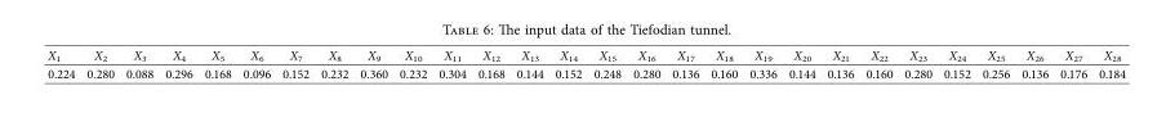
<table><thead><tr><td>X<sub>1</sub></td><td>X<sub>2</sub></td><td>X<sub>3</sub></td><td>X<sub>4</sub></td><td>X<sub>5</sub></td><td>X<sub>6</sub></td><td>X<sub>7</sub></td><td>X<sub>8</sub></td><td>X<sub>9</sub></td><td>X<sub>10</sub></td><td>X<sub>11</sub></td><td>X<sub>12</sub></td><td>X<sub>13</sub></td><td>X<sub>14</sub></td><td>X<sub>15</sub></td><td>X<sub>16</sub></td><td>X<sub>17</sub></td><td>X<sub>18</sub></td><td>X<sub>19</sub></td><td>X<sub>20</sub></td><td>X<sub>21</sub></td><td>X<sub>22</sub></td><td>X<sub>23</sub></td><td>X<sub>24</sub></td><td>X<sub>25</sub></td><td>X<sub>26</sub></td><td>X<sub>27</sub></td><td>X<sub>28</sub></td></tr></thead><tbody><tr><td>0.224</td><td>0.280</td><td>0.088</td><td>0.296</td><td>0.168</td><td>0.096</td><td>0.152</td><td>0.232</td><td>0.360</td><td>0.232</td><td>0.304</td><td>0.168</td><td>0.144</td><td>0.152</td><td>0.248</td><td>0.280</td><td>0.136</td><td>0.160</td><td>0.336</td><td>0.144</td><td>0.136</td><td>0.160</td><td>0.280</td><td>0.152</td><td>0.256</td><td>0.136</td><td>0.176</td><td>0.184</td></tr></tbody></table>